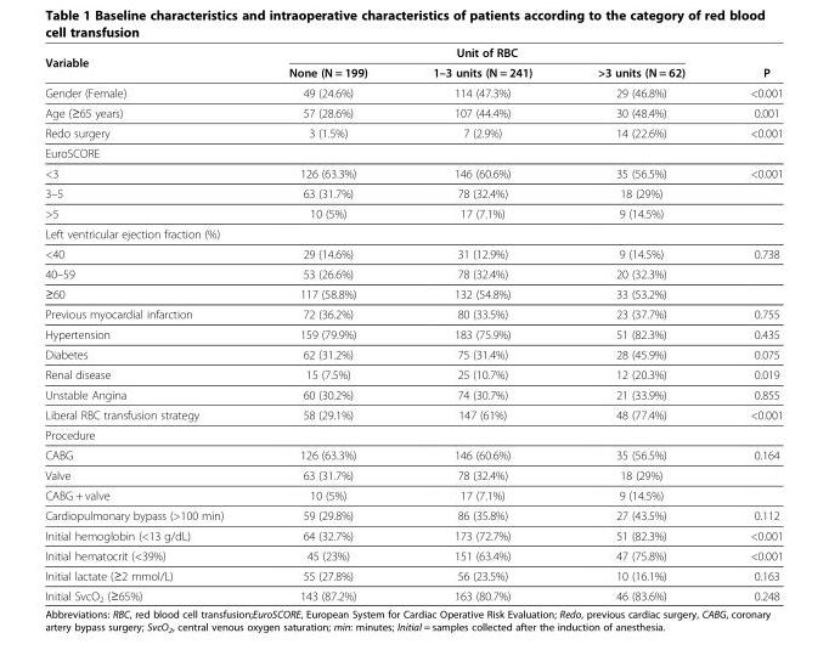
<table><thead><tr><td rowspan="2">Variable</td><td colspan="3">Unit of RBC</td><td rowspan="2">P</td></tr><tr><td>None (N = 199)</td><td>1–3 units (N = 241)</td><td>&gt;3 units (N = 62)</td></tr></thead><tbody><tr><td>Gender (Female)</td><td>49 (24.6%)</td><td>114 (47.3%)</td><td>29 (46.8%)</td><td>&lt;0.001</td></tr><tr><td>Age (≥65 years)</td><td>57 (28.6%)</td><td>107 (44.4%)</td><td>30 (48.4%)</td><td>0.001</td></tr><tr><td>Redo surgery</td><td>3 (1.5%)</td><td>7 (2.9%)</td><td>14 (22.6%)</td><td>&lt;0.001</td></tr><tr><td colspan="5">EuroSCORE</td></tr><tr><td>&lt;3</td><td>126 (63.3%)</td><td>146 (60.6%)</td><td>35 (56.5%)</td><td>&lt;0.001</td></tr><tr><td>3–5</td><td>63 (31.7%)</td><td>78 (32.4%)</td><td>18 (29%)</td><td></td></tr><tr><td>&gt;5</td><td>10 (5%)</td><td>17 (7.1%)</td><td>9 (14.5%)</td><td></td></tr><tr><td colspan="5">Left ventricular ejection fraction (%)</td></tr><tr><td>&lt;40</td><td>29 (14.6%)</td><td>31 (12.9%)</td><td>9 (14.5%)</td><td>0.738</td></tr><tr><td>40–59</td><td>53 (26.6%)</td><td>78 (32.4%)</td><td>20 (32.3%)</td><td></td></tr><tr><td>≥60</td><td>117 (58.8%)</td><td>132 (54.8%)</td><td>33 (53.2%)</td><td></td></tr><tr><td>Previous myocardial infarction</td><td>72 (36.2%)</td><td>80 (33.5%)</td><td>23 (37.7%)</td><td>0.755</td></tr><tr><td>Hypertension</td><td>159 (79.9%)</td><td>183 (75.9%)</td><td>51 (82.3%)</td><td>0.435</td></tr><tr><td>Diabetes</td><td>62 (31.2%)</td><td>75 (31.4%)</td><td>28 (45.9%)</td><td>0.075</td></tr><tr><td>Renal disease</td><td>15 (7.5%)</td><td>25 (10.7%)</td><td>12 (20.3%)</td><td>0.019</td></tr><tr><td>Unstable Angina</td><td>60 (30.2%)</td><td>74 (30.7%)</td><td>21 (33.9%)</td><td>0.855</td></tr><tr><td>Liberal RBC transfusion strategy</td><td>58 (29.1%)</td><td>147 (61%)</td><td>48 (77.4%)</td><td>&lt;0.001</td></tr><tr><td colspan="5">Procedure</td></tr><tr><td>CABG</td><td>126 (63.3%)</td><td>146 (60.6%)</td><td>35 (56.5%)</td><td>0.164</td></tr><tr><td>Valve</td><td>63 (31.7%)</td><td>78 (32.4%)</td><td>18 (29%)</td><td></td></tr><tr><td>CABG + valve</td><td>10 (5%)</td><td>17 (7.1%)</td><td>9 (14.5%)</td><td></td></tr><tr><td>Cardiopulmonary bypass (&gt;100 min)</td><td>59 (29.8%)</td><td>86 (35.8%)</td><td>27 (43.5%)</td><td>0.112</td></tr><tr><td>Initial hemoglobin (&lt;13 g/dL)</td><td>64 (32.7%)</td><td>173 (72.7%)</td><td>51 (82.3%)</td><td>&lt;0.001</td></tr><tr><td>Initial hematocrit (&lt;39%)</td><td>45 (23%)</td><td>151 (63.4%)</td><td>47 (75.8%)</td><td>&lt;0.001</td></tr><tr><td>Initial lactate (≥2 mmol/L)</td><td>55 (27.8%)</td><td>56 (23.5%)</td><td>10 (16.1%)</td><td>0.163</td></tr><tr><td>Initial SvcO<sub>2</sub> (≥65%)</td><td>143 (87.2%)</td><td>163 (80.7%)</td><td>46 (83.6%)</td><td>0.248</td></tr></tbody></table>